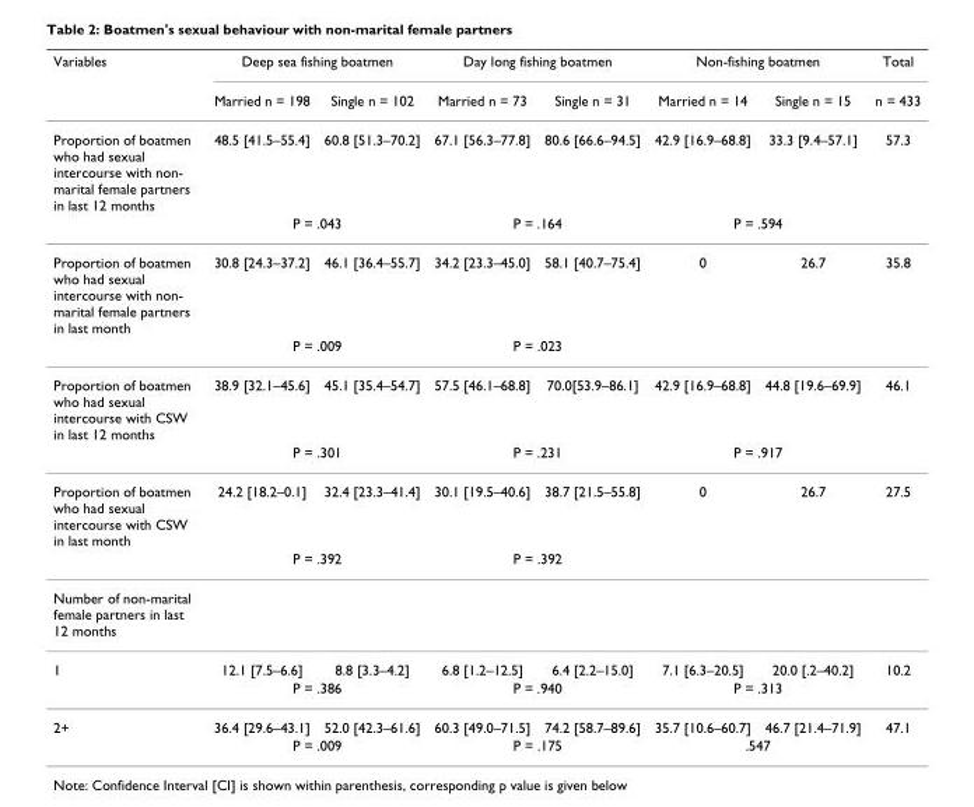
<table><thead><tr><td rowspan="2">Variables</td><td colspan="2">Deep sea fishing boatmen</td><td colspan="2">Day long fishing boatmen</td><td colspan="2">Non-fishing boatmen</td><td rowspan="2">Total n = 433</td></tr><tr><td>Married n = 198</td><td>Single n = 102</td><td>Married n = 73</td><td>Single n = 31</td><td>Married n = 14</td><td>Single n = 15</td></tr></thead><tbody><tr><td rowspan="2">Proportion of boatmen who had sexual intercourse with non- marital female partners in last 12 months</td><td>48.5 [41.5–55.4]</td><td>60.8 [51.3–70.2]</td><td>67.1 [56.3–77.8]</td><td>80.6 [66.6–94.5]</td><td>42.9 [16.9–68.8]</td><td>33.3 [9.4–57.1]</td><td>57.3</td></tr><tr><td colspan="2">P = .043</td><td colspan="2">P = .164</td><td colspan="2">P = .594</td><td></td></tr><tr><td rowspan="2">Proportion of boatmen who had sexual intercourse with non- marital female partners in last month</td><td>30.8 [24.3–37.2]</td><td>46.1 [36.4–55.7]</td><td>34.2 [23.3–45.0]</td><td>58.1 [40.7–75.4]</td><td>0</td><td>26.7</td><td>35.8</td></tr><tr><td colspan="2">P = .009</td><td colspan="2">P = .023</td><td></td><td></td><td></td></tr><tr><td rowspan="2">Proportion of boatmen who had sexual intercourse with CSW in last 12 months</td><td>38.9 [32.1–45.6]</td><td>45.1 [35.4–54.7]</td><td>57.5 [46.1–68.8]</td><td>70.0[53.9–86.1]</td><td>42.9 [16.9–68.8]</td><td>44.8 [19.6–69.9]</td><td>46.1</td></tr><tr><td colspan="2">P = .301</td><td colspan="2">P = .231</td><td colspan="2">P = .917</td><td></td></tr><tr><td rowspan="2">Proportion of boatmen who had sexual intercourse with CSW in last month</td><td>24.2 [18.2–0.1]</td><td>32.4 [23.3–41.4]</td><td>30.1 [19.5–40.6]</td><td>38.7 [21.5–55.8]</td><td>0</td><td>26.7</td><td>27.5</td></tr><tr><td colspan="2">P = .392</td><td colspan="2">P = .392</td><td></td><td></td><td></td></tr><tr><td colspan="8">Number of non-marital female partners in last 12 months</td></tr><tr><td rowspan="2">1</td><td>12.1 [7.5–6.6]</td><td>8.8 [3.3–4.2]</td><td>6.8 [1.2–12.5]</td><td>6.4 [2.2–15.0]</td><td>7.1 [6.3–20.5]</td><td>20.0 [.2–40.2]</td><td>10.2</td></tr><tr><td colspan="2">P = .386</td><td colspan="2">P = .940</td><td colspan="2">P = .313</td><td></td></tr><tr><td rowspan="2">2+</td><td>36.4 [29.6–43.1]</td><td>52.0 [42.3–61.6]</td><td>60.3 [49.0–71.5]</td><td>74.2 [58.7–89.6]</td><td>35.7 [10.6–60.7]</td><td>46.7 [21.4–71.9]</td><td>47.1</td></tr><tr><td colspan="2">P = .009</td><td colspan="2">P = .175</td><td colspan="2">.547</td><td></td></tr></tbody></table>